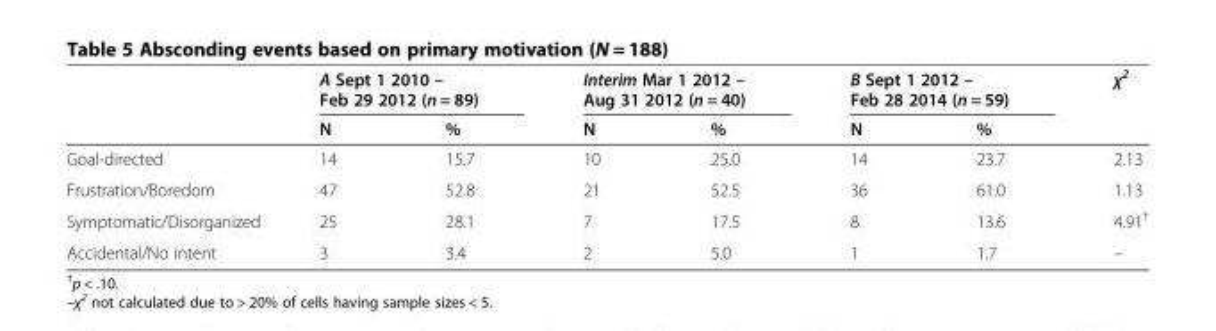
<table><thead><tr><td rowspan="2"></td><td colspan="2">A Sept 1 2010 – Feb 29 2012 (n = 89)</td><td colspan="2">Interim Mar 1 2012 – Aug 31 2012 (n = 40)</td><td colspan="2">B Sept 1 2012 – Feb 28 2014 (n = 59)</td><td rowspan="2">χ<sup>2</sup></td></tr><tr><td>N</td><td>%</td><td>N</td><td>%</td><td>N</td><td>%</td></tr></thead><tbody><tr><td>Goal-directed</td><td>14</td><td>15.7</td><td>10</td><td>25.0</td><td>14</td><td>23.7</td><td>2.13</td></tr><tr><td>Frustration/Boredom</td><td>47</td><td>52.8</td><td>21</td><td>52.5</td><td>36</td><td>61.0</td><td>1.13</td></tr><tr><td>Symptomatic/Disorganized</td><td>25</td><td>28.1</td><td>7</td><td>17.5</td><td>8</td><td>13.6</td><td>4.91<sup>†</sup></td></tr><tr><td>Accidental/No intent</td><td>3</td><td>3.4</td><td>2</td><td>5.0</td><td>1</td><td>1.7</td><td>–</td></tr></tbody></table>